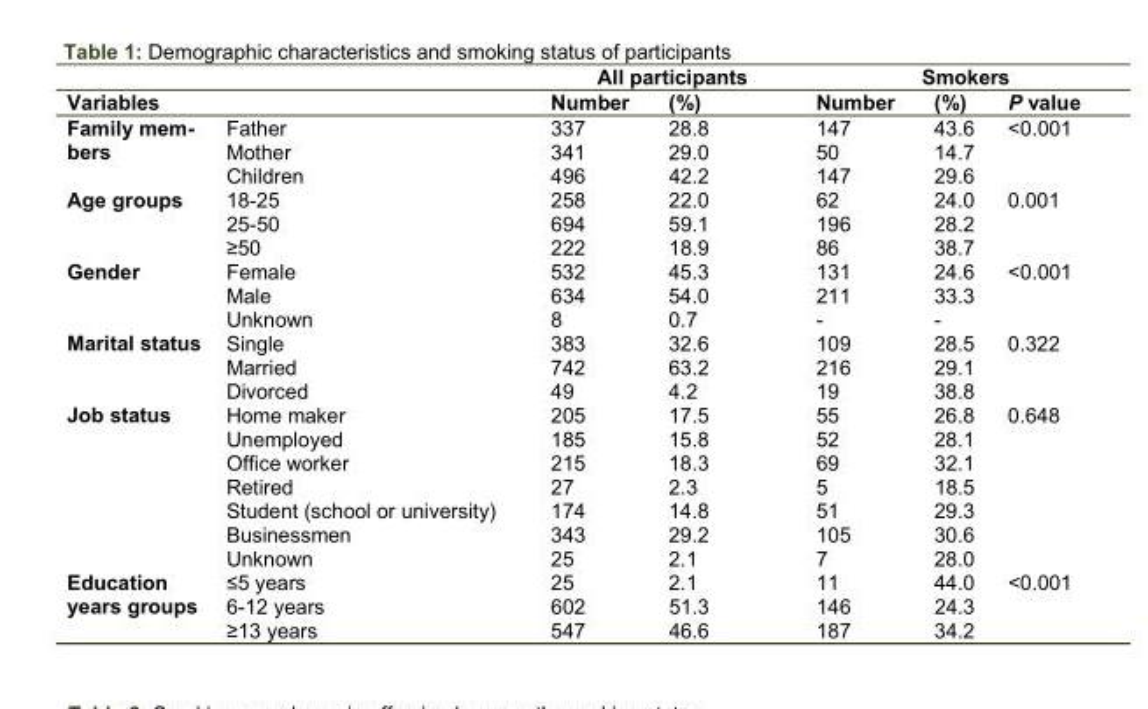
<table><thead><tr><td></td><td></td><td colspan="2">All participants</td><td colspan="3">Smokers</td></tr><tr><td colspan="2">Variables</td><td>Number</td><td>(%)</td><td>Number</td><td>(%)</td><td>P value</td></tr></thead><tbody><tr><td rowspan="3">Family mem- bers</td><td>Father</td><td>337</td><td>28.8</td><td>147</td><td>43.6</td><td rowspan="3">&lt;0.001</td></tr><tr><td>Mother</td><td>341</td><td>29.0</td><td>50</td><td>14.7</td></tr><tr><td>Children</td><td>496</td><td>42.2</td><td>147</td><td>29.6</td></tr><tr><td rowspan="3">Age groups</td><td>18-25</td><td>258</td><td>22.0</td><td>62</td><td>24.0</td><td rowspan="3">0.001</td></tr><tr><td>25-50</td><td>694</td><td>59.1</td><td>196</td><td>28.2</td></tr><tr><td>≥50</td><td>222</td><td>18.9</td><td>86</td><td>38.7</td></tr><tr><td rowspan="3">Gender</td><td>Female</td><td>532</td><td>45.3</td><td>131</td><td>24.6</td><td rowspan="3">&lt;0.001</td></tr><tr><td>Male</td><td>634</td><td>54.0</td><td>211</td><td>33.3</td></tr><tr><td>Unknown</td><td>8</td><td>0.7</td><td>-</td><td>-</td></tr><tr><td rowspan="3">Marital status</td><td>Single</td><td>383</td><td>32.6</td><td>109</td><td>28.5</td><td rowspan="3">0.322</td></tr><tr><td>Married</td><td>742</td><td>63.2</td><td>216</td><td>29.1</td></tr><tr><td>Divorced</td><td>49</td><td>4.2</td><td>19</td><td>38.8</td></tr><tr><td rowspan="7">Job status</td><td>Home maker</td><td>205</td><td>17.5</td><td>55</td><td>26.8</td><td rowspan="7">0.648</td></tr><tr><td>Unemployed</td><td>185</td><td>15.8</td><td>52</td><td>28.1</td></tr><tr><td>Office worker</td><td>215</td><td>18.3</td><td>69</td><td>32.1</td></tr><tr><td>Retired</td><td>27</td><td>2.3</td><td>5</td><td>18.5</td></tr><tr><td>Student (school or university)</td><td>174</td><td>14.8</td><td>51</td><td>29.3</td></tr><tr><td>Businessmen</td><td>343</td><td>29.2</td><td>105</td><td>30.6</td></tr><tr><td>Unknown</td><td>25</td><td>2.1</td><td>7</td><td>28.0</td></tr><tr><td rowspan="3">Education years groups</td><td>≤5 years</td><td>25</td><td>2.1</td><td>11</td><td>44.0</td><td rowspan="3">&lt;0.001</td></tr><tr><td>6-12 years</td><td>602</td><td>51.3</td><td>146</td><td>24.3</td></tr><tr><td>≥13 years</td><td>547</td><td>46.6</td><td>187</td><td>34.2</td></tr></tbody></table>